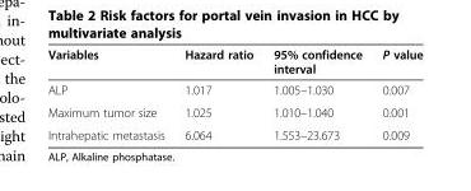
<table><thead><tr><td>Variables</td><td>Hazard ratio</td><td>95% confidence interval</td><td>P value</td></tr></thead><tbody><tr><td>ALP</td><td>1.017</td><td>1.005–1.030</td><td>0.007</td></tr><tr><td>Maximum tumor size</td><td>1.025</td><td>1.010–1.040</td><td>0.001</td></tr><tr><td>Intrahepatic metastasis</td><td>6.064</td><td>1.553–23.673</td><td>0.009</td></tr></tbody></table>